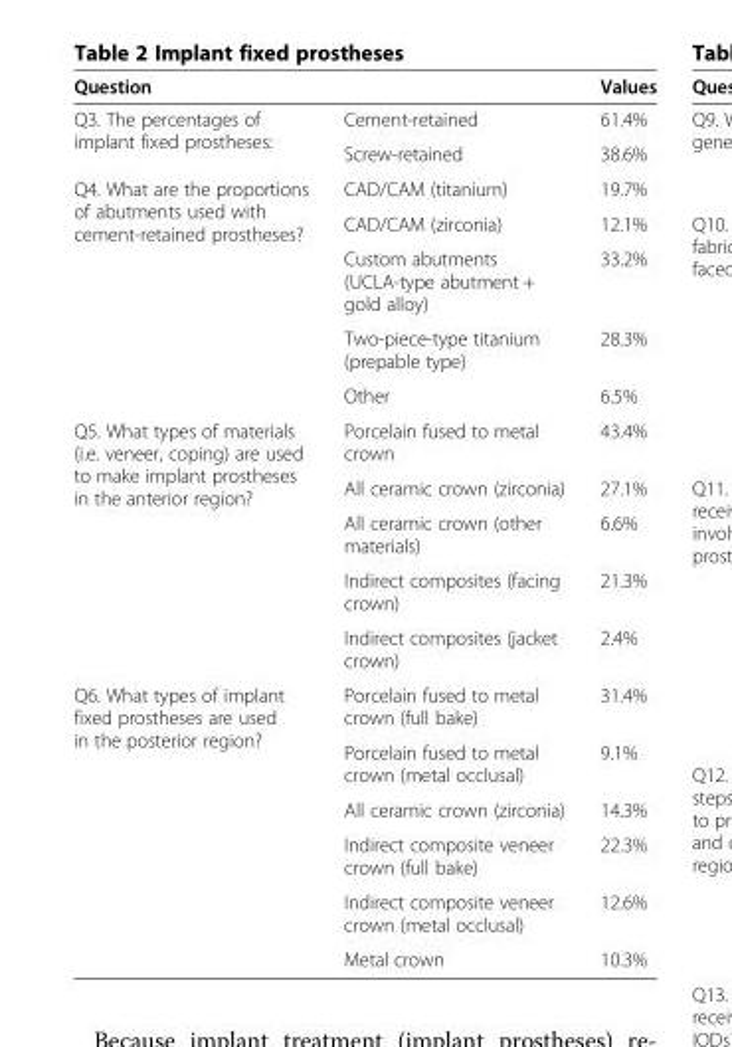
<table><thead><tr><td>Question</td><td></td><td>Values</td></tr></thead><tbody><tr><td rowspan="2">Q3. The percentages of implant fixed prostheses:</td><td>Cement-retained</td><td>61.4%</td></tr><tr><td>Screw-retained</td><td>38.6%</td></tr><tr><td rowspan="5">Q4. What are the proportions of abutments used with cement-retained prostheses?</td><td>CAD/CAM (titanium)</td><td>19.7%</td></tr><tr><td>CAD/CAM (zirconia)</td><td>12.1%</td></tr><tr><td>Custom abutments (UCLA-type abutment + gold alloy)</td><td>33.2%</td></tr><tr><td>Two-piece-type titanium (prepable type)</td><td>28.3%</td></tr><tr><td>Other</td><td>6.5%</td></tr><tr><td rowspan="5">Q5. What types of materials (i.e. veneer, coping) are used to make implant prostheses in the anterior region?</td><td>Porcelain fused to metal crown</td><td>43.4%</td></tr><tr><td>All ceramic crown (zirconia)</td><td>27.1%</td></tr><tr><td>All ceramic crown (other materials)</td><td>6.6%</td></tr><tr><td>Indirect composites (facing crown)</td><td>21.3%</td></tr><tr><td>Indirect composites (jacket crown)</td><td>2.4%</td></tr><tr><td rowspan="6">Q6. What types of implant fixed prostheses are used in the posterior region?</td><td>Porcelain fused to metal crown (full bake)</td><td>31.4%</td></tr><tr><td>Porcelain fused to metal crown (metal occlusal)</td><td>9.1%</td></tr><tr><td>All ceramic crown (zirconia)</td><td>14.3%</td></tr><tr><td>Indirect composite veneer crown (full bake)</td><td>22.3%</td></tr><tr><td>Indirect composite veneer crown (metal occlusal)</td><td>12.6%</td></tr><tr><td>Metal crown</td><td>10.3%</td></tr></tbody></table>